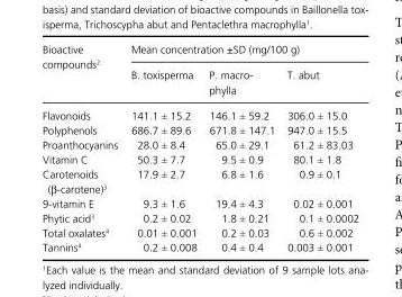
<table><thead><tr><td rowspan="2">Bioactive compounds <sup>2</sup></td><td colspan="3">Mean concentration ±SD (mg/100 g)</td></tr><tr><td>B. toxisperma</td><td>P. macro - phylla</td><td>T. abut</td></tr></thead><tbody><tr><td>Flavonoids</td><td>141.1 ± 15.2</td><td>146.1 ± 59.2</td><td>306.0 ± 15.0</td></tr><tr><td>Polyphenols</td><td>686.7 ± 89.6</td><td>671.8 ± 147.1</td><td>947.0 ± 15.5</td></tr><tr><td>Proanthocyanins</td><td>28.0 ± 8.4</td><td>65.0 ± 29.1</td><td>61.2 ± 83.03</td></tr><tr><td>Vitamin C</td><td>50.3 ± 7.7</td><td>9.5 ± 0.9</td><td>80.1 ± 1.8</td></tr><tr><td>Carotenoids ( β - carotene) <sup>3</sup></td><td>17.9 ± 2.7</td><td>6.8 ± 1.6</td><td>0.9 ± 0.1</td></tr><tr><td>9- vitamin E</td><td>9.3 ± 1.6</td><td>19.4 ± 4.3</td><td>0.02 ± 0.001</td></tr><tr><td>Phytic acid <sup>3</sup></td><td>0.2 ± 0.02</td><td>1.8 ± 0.21</td><td>0.1 ± 0.0002</td></tr><tr><td>Total oxalates <sup>4</sup></td><td>0.01 ± 0.001</td><td>0.2 ± 0.03</td><td>0.6 ± 0.002</td></tr><tr><td>Tannins <sup>4</sup></td><td>0.2 ± 0.008</td><td>0.4 ± 0.4</td><td>0.003 ± 0.001</td></tr></tbody></table>